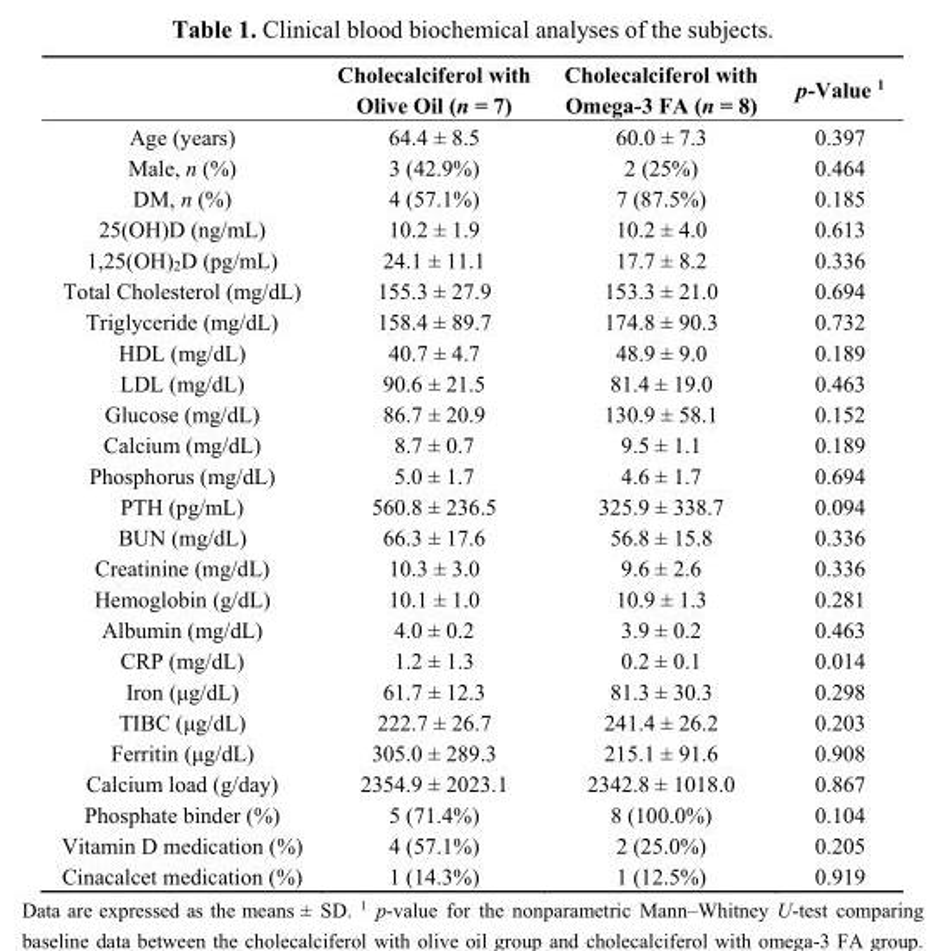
<table><thead><tr><td></td><td>Cholecalciferol with Olive Oil (n = 7)</td><td>Cholecalciferol with Omega-3 FA (n = 8)</td><td>p-Value <sup>1</sup></td></tr></thead><tbody><tr><td>Age (years)</td><td>64.4 ± 8.5</td><td>60.0 ± 7.3</td><td>0.397</td></tr><tr><td>Male, n (%)</td><td>3 (42.9%)</td><td>2 (25%)</td><td>0.464</td></tr><tr><td>DM, n (%)</td><td>4 (57.1%)</td><td>7 (87.5%)</td><td>0.185</td></tr><tr><td>25(OH)D (ng/mL)</td><td>10.2 ± 1.9</td><td>10.2 ± 4.0</td><td>0.613</td></tr><tr><td>1,25(OH)<sub>2</sub>D (pg/mL)</td><td>24.1 ± 11.1</td><td>17.7 ± 8.2</td><td>0.336</td></tr><tr><td>Total Cholesterol (mg/dL)</td><td>155.3 ± 27.9</td><td>153.3 ± 21.0</td><td>0.694</td></tr><tr><td>Triglyceride (mg/dL)</td><td>158.4 ± 89.7</td><td>174.8 ± 90.3</td><td>0.732</td></tr><tr><td>HDL (mg/dL)</td><td>40.7 ± 4.7</td><td>48.9 ± 9.0</td><td>0.189</td></tr><tr><td>LDL (mg/dL)</td><td>90.6 ± 21.5</td><td>81.4 ± 19.0</td><td>0.463</td></tr><tr><td>Glucose (mg/dL)</td><td>86.7 ± 20.9</td><td>130.9 ± 58.1</td><td>0.152</td></tr><tr><td>Calcium (mg/dL)</td><td>8.7 ± 0.7</td><td>9.5 ± 1.1</td><td>0.189</td></tr><tr><td>Phosphorus (mg/dL)</td><td>5.0 ± 1.7</td><td>4.6 ± 1.7</td><td>0.694</td></tr><tr><td>PTH (pg/mL)</td><td>560.8 ± 236.5</td><td>325.9 ± 338.7</td><td>0.094</td></tr><tr><td>BUN (mg/dL)</td><td>66.3 ± 17.6</td><td>56.8 ± 15.8</td><td>0.336</td></tr><tr><td>Creatinine (mg/dL)</td><td>10.3 ± 3.0</td><td>9.6 ± 2.6</td><td>0.336</td></tr><tr><td>Hemoglobin (g/dL)</td><td>10.1 ± 1.0</td><td>10.9 ± 1.3</td><td>0.281</td></tr><tr><td>Albumin (mg/dL)</td><td>4.0 ± 0.2</td><td>3.9 ± 0.2</td><td>0.463</td></tr><tr><td>CRP (mg/dL)</td><td>1.2 ± 1.3</td><td>0.2 ± 0.1</td><td>0.014</td></tr><tr><td>Iron (μg/dL)</td><td>61.7 ± 12.3</td><td>81.3 ± 30.3</td><td>0.298</td></tr><tr><td>TIBC (μg/dL)</td><td>222.7 ± 26.7</td><td>241.4 ± 26.2</td><td>0.203</td></tr><tr><td>Ferritin (μg/dL)</td><td>305.0 ± 289.3</td><td>215.1 ± 91.6</td><td>0.908</td></tr><tr><td>Calcium load (g/day)</td><td>2354.9 ± 2023.1</td><td>2342.8 ± 1018.0</td><td>0.867</td></tr><tr><td>Phosphate binder (%)</td><td>5 (71.4%)</td><td>8 (100.0%)</td><td>0.104</td></tr><tr><td>Vitamin D medication (%)</td><td>4 (57.1%)</td><td>2 (25.0%)</td><td>0.205</td></tr><tr><td>Cinacalcet medication (%)</td><td>1 (14.3%)</td><td>1 (12.5%)</td><td>0.919</td></tr></tbody></table>